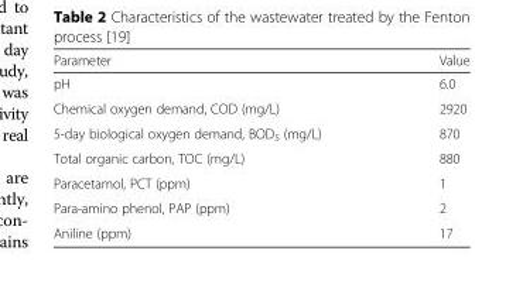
<table><thead><tr><td>Parameter</td><td>Value</td></tr></thead><tbody><tr><td>pH</td><td>6.0</td></tr><tr><td>Chemical oxygen demand, COD (mg/L)</td><td>2920</td></tr><tr><td>5-day biological oxygen demand, BOD<sub>5</sub> (mg/L)</td><td>870</td></tr><tr><td>Total organic carbon, TOC (mg/L)</td><td>880</td></tr><tr><td>Paracetamol, PCT (ppm)</td><td>1</td></tr><tr><td>Para-amino phenol, PAP (ppm)</td><td>2</td></tr><tr><td>Aniline (ppm)</td><td>17</td></tr></tbody></table>